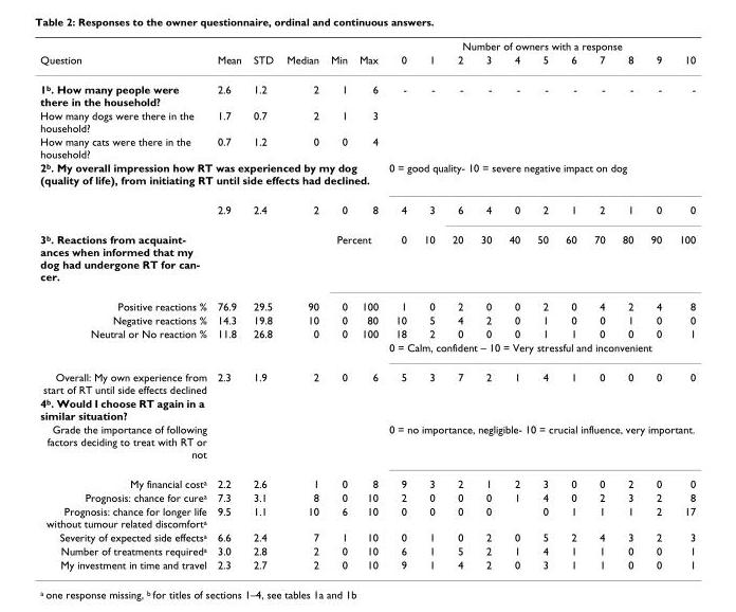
<table><thead><tr><td rowspan="2">Question</td><td rowspan="2">Mean</td><td rowspan="2">STD</td><td rowspan="2">Median</td><td rowspan="2">Min</td><td rowspan="2">Max</td><td colspan="11">Number of owners with a response</td></tr><tr><td>0</td><td>1</td><td>2</td><td>3</td><td>4</td><td>5</td><td>6</td><td>7</td><td>8</td><td>9</td><td>10</td></tr></thead><tbody><tr><td>1<sup>b</sup>. How many people were there in the household?</td><td>2.6</td><td>1.2</td><td>2</td><td>1</td><td>6</td><td>-</td><td>-</td><td>-</td><td>-</td><td>-</td><td>-</td><td>-</td><td>-</td><td>-</td><td>-</td><td>-</td></tr><tr><td>How many dogs were there in the household?</td><td>1.7</td><td>0.7</td><td>2</td><td>1</td><td>3</td><td></td><td></td><td></td><td></td><td></td><td></td><td></td><td></td><td></td><td></td><td></td></tr><tr><td>How many cats were there in the household?</td><td>0.7</td><td>1.2</td><td>0</td><td>0</td><td>4</td><td></td><td></td><td></td><td></td><td></td><td></td><td></td><td></td><td></td><td></td><td></td></tr><tr><td colspan="6">2<sup>b</sup>. My overall impression how RT was experienced by my dog (quality of life), from initiating RT until side effects had declined.</td><td colspan="11">0 = good quality- 10 = severe negative impact on dog</td></tr><tr><td></td><td>2.9</td><td>2.4</td><td>2</td><td>0</td><td>8</td><td>4</td><td>3</td><td>6</td><td>4</td><td>0</td><td>2</td><td>1</td><td>2</td><td>1</td><td>0</td><td>0</td></tr><tr><td>3b. Reactions from acquaint- ances when informed that my dog had undergone RT for can- cer.</td><td></td><td></td><td></td><td colspan="2">Percent</td><td>0</td><td>10</td><td>20</td><td>30</td><td>40</td><td>50</td><td>60</td><td>70</td><td>80</td><td>90</td><td>100</td></tr><tr><td>Positive reactions %</td><td>76.9</td><td>29.5</td><td>90</td><td>0</td><td>100</td><td>1</td><td>0</td><td>2</td><td>0</td><td>0</td><td>2</td><td>0</td><td>4</td><td>2</td><td>4</td><td>8</td></tr><tr><td>Negative reactions %</td><td>14.3</td><td>19.8</td><td>10</td><td>0</td><td>80</td><td>10</td><td>5</td><td>4</td><td>2</td><td>0</td><td>1</td><td>0</td><td>0</td><td>1</td><td>0</td><td>0</td></tr><tr><td rowspan="2">Neutral or No reaction %</td><td>11.8</td><td>26.8</td><td>0</td><td>0</td><td>100</td><td>18</td><td>2</td><td>0</td><td>0</td><td>0</td><td>1</td><td>1</td><td>0</td><td>0</td><td>0</td><td>1</td></tr><tr><td></td><td></td><td></td><td></td><td></td><td colspan="11">0 = Calm, confident – 10 = Very stressful and inconvenient</td></tr><tr><td>Overall: My own experience from start of RT until side effects declined</td><td>2.3</td><td>1.9</td><td>2</td><td>0</td><td>6</td><td>5</td><td>3</td><td>7</td><td>2</td><td>1</td><td>4</td><td>1</td><td>0</td><td>0</td><td>0</td><td>0</td></tr><tr><td colspan="17">4<sup>b</sup>. Would I choose RT again in a similar situation?</td></tr><tr><td>Grade the importance of following factors deciding to treat with RT or not</td><td></td><td></td><td></td><td></td><td></td><td colspan="11">0 = no importance, negligible- 10 = crucial influence, very important.</td></tr><tr><td>My financial cost<sup>a</sup></td><td>2.2</td><td>2.6</td><td>1</td><td>0</td><td>8</td><td>9</td><td>3</td><td>2</td><td>1</td><td>2</td><td>3</td><td>0</td><td>0</td><td>2</td><td>0</td><td>0</td></tr><tr><td>Prognosis: chance for cure<sup>a</sup></td><td>7.3</td><td>3.1</td><td>8</td><td>0</td><td>10</td><td>2</td><td>0</td><td>0</td><td>0</td><td>1</td><td>4</td><td>0</td><td>2</td><td>3</td><td>2</td><td>8</td></tr><tr><td>Prognosis: chance for longer life without tumour related discomfort<sup>a</sup></td><td>9.5</td><td>1.1</td><td>10</td><td>6</td><td>10</td><td>0</td><td>0</td><td>0</td><td>0</td><td></td><td>0</td><td>1</td><td>1</td><td>1</td><td>2</td><td>17</td></tr><tr><td>Severity of expected side effects<sup>a</sup></td><td>6.6</td><td>2.4</td><td>7</td><td>1</td><td>10</td><td>0</td><td>1</td><td>0</td><td>2</td><td>0</td><td>5</td><td>2</td><td>4</td><td>3</td><td>2</td><td>3</td></tr><tr><td>Number of treatments required<sup>a</sup></td><td>3.0</td><td>2.8</td><td>2</td><td>0</td><td>10</td><td>6</td><td>1</td><td>5</td><td>2</td><td>1</td><td>4</td><td>1</td><td>1</td><td>0</td><td>0</td><td>1</td></tr><tr><td>My investment in time and travel</td><td>2.3</td><td>2.7</td><td>2</td><td>0</td><td>10</td><td>9</td><td>1</td><td>4</td><td>2</td><td>0</td><td>3</td><td>1</td><td>1</td><td>0</td><td>0</td><td>1</td></tr></tbody></table>